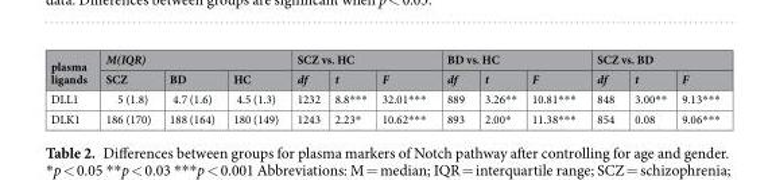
<table><thead><tr><td rowspan="2">plasma ligands</td><td colspan="3">M(IQR)</td><td colspan="3">SCZ vs. HC</td><td colspan="3">BD vs. HC</td><td colspan="3">SCZ vs. BD</td></tr><tr><td>SCZ</td><td>BD</td><td>HC</td><td>df</td><td>t</td><td>F</td><td>df</td><td>t</td><td>F</td><td>df</td><td>t</td><td>F</td></tr></thead><tbody><tr><td>DLL1</td><td>5 (1.8)</td><td>4.7 (1.6)</td><td>4.5 (1.3)</td><td>1232</td><td>8.8***</td><td>32.01***</td><td>889</td><td>3.26**</td><td>10.81***</td><td>848</td><td>3.00**</td><td>9.13***</td></tr><tr><td>DLK1</td><td>186 (170)</td><td>188 (164)</td><td>180 (149)</td><td>1243</td><td>2.23*</td><td>10.62***</td><td>893</td><td>2.00*</td><td>11.38***</td><td>854</td><td>0.08</td><td>9.06***</td></tr></tbody></table>